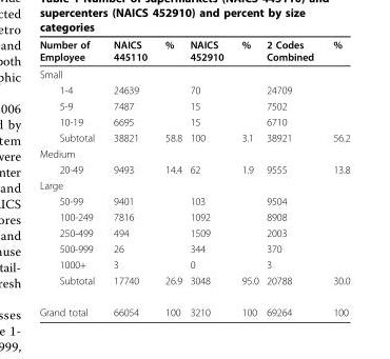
<table><thead><tr><td>Number of Employee</td><td>NAICS 445110</td><td>%</td><td>NAICS 452910</td><td>%</td><td>2 Codes Combined</td><td>%</td></tr></thead><tbody><tr><td colspan="7">Small</td></tr><tr><td>1-4</td><td>24639</td><td></td><td>70</td><td></td><td>24709</td><td></td></tr><tr><td>5-9</td><td>7487</td><td></td><td>15</td><td></td><td>7502</td><td></td></tr><tr><td>10-19</td><td>6695</td><td></td><td>15</td><td></td><td>6710</td><td></td></tr><tr><td>Subtotal</td><td>38821</td><td>58.8</td><td>100</td><td>3.1</td><td>38921</td><td>56.2</td></tr><tr><td colspan="7">Medium</td></tr><tr><td>20-49</td><td>9493</td><td>14.4</td><td>62</td><td>1.9</td><td>9555</td><td>13.8</td></tr><tr><td colspan="7">Large</td></tr><tr><td>50-99</td><td>9401</td><td></td><td>103</td><td></td><td>9504</td><td></td></tr><tr><td>100-249</td><td>7816</td><td></td><td>1092</td><td></td><td>8908</td><td></td></tr><tr><td>250-499</td><td>494</td><td></td><td>1509</td><td></td><td>2003</td><td></td></tr><tr><td>500-999</td><td>26</td><td></td><td>344</td><td></td><td>370</td><td></td></tr><tr><td>1000+</td><td>3</td><td></td><td>0</td><td></td><td>3</td><td></td></tr><tr><td>Subtotal</td><td>17740</td><td>26.9</td><td>3048</td><td>95.0</td><td>20788</td><td>30.0</td></tr><tr><td>Grand total</td><td>66054</td><td>100</td><td>3210</td><td>100</td><td>69264</td><td>100</td></tr></tbody></table>